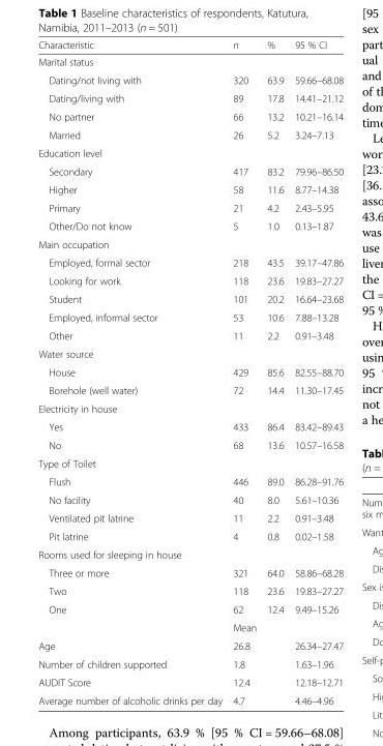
<table><thead><tr><td>Characteristic</td><td>n</td><td>%</td><td>95 % CI</td></tr></thead><tbody><tr><td colspan="4">Marital status</td></tr><tr><td>Dating/not living with</td><td>320</td><td>63.9</td><td>59.66–68.08</td></tr><tr><td>Dating/living with</td><td>89</td><td>17.8</td><td>14.41–21.12</td></tr><tr><td>No partner</td><td>66</td><td>13.2</td><td>10.21–16.14</td></tr><tr><td>Married</td><td>26</td><td>5.2</td><td>3.24–7.13</td></tr><tr><td colspan="4">Education level</td></tr><tr><td>Secondary</td><td>417</td><td>83.2</td><td>79.96–86.50</td></tr><tr><td>Higher</td><td>58</td><td>11.6</td><td>8.77–14.38</td></tr><tr><td>Primary</td><td>21</td><td>4.2</td><td>2.43–5.95</td></tr><tr><td>Other/Do not know</td><td>5</td><td>1.0</td><td>0.13–1.87</td></tr><tr><td colspan="4">Main occupation</td></tr><tr><td>Employed, formal sector</td><td>218</td><td>43.5</td><td>39.17–47.86</td></tr><tr><td>Looking for work</td><td>118</td><td>23.6</td><td>19.83–27.27</td></tr><tr><td>Student</td><td>101</td><td>20.2</td><td>16.64–23.68</td></tr><tr><td>Employed, informal sector</td><td>53</td><td>10.6</td><td>7.88–13.28</td></tr><tr><td>Other</td><td>11</td><td>2.2</td><td>0.91–3.48</td></tr><tr><td colspan="4">Water source</td></tr><tr><td>House</td><td>429</td><td>85.6</td><td>82.55–88.70</td></tr><tr><td>Borehole (well water)</td><td>72</td><td>14.4</td><td>11.30–17.45</td></tr><tr><td colspan="4">Electricity in house</td></tr><tr><td>Yes</td><td>433</td><td>86.4</td><td>83.42–89.43</td></tr><tr><td>No</td><td>68</td><td>13.6</td><td>10.57–16.58</td></tr><tr><td colspan="4">Type of Toilet</td></tr><tr><td>Flush</td><td>446</td><td>89.0</td><td>86.28–91.76</td></tr><tr><td>No facility</td><td>40</td><td>8.0</td><td>5.61–10.36</td></tr><tr><td>Ventilated pit latrine</td><td>11</td><td>2.2</td><td>0.91–3.48</td></tr><tr><td>Pit latrine</td><td>4</td><td>0.8</td><td>0.02–1.58</td></tr><tr><td colspan="4">Rooms used for sleeping in house</td></tr><tr><td>Three or more</td><td>321</td><td>64.0</td><td>58.86–68.28</td></tr><tr><td>Two</td><td>118</td><td>23.6</td><td>19.83–27.27</td></tr><tr><td rowspan="2">One</td><td>62</td><td>12.4</td><td>9.49–15.26</td></tr><tr><td>Mean</td><td></td><td></td></tr><tr><td>Age</td><td>26.8</td><td></td><td>26.34–27.47</td></tr><tr><td>Number of children supported</td><td>1.8</td><td></td><td>1.63–1.96</td></tr><tr><td>AUDIT Score</td><td>12.4</td><td></td><td>12.18–12.71</td></tr><tr><td>Average number of alcoholic drinks per day</td><td>4.7</td><td></td><td>4.46–4.96</td></tr></tbody></table>